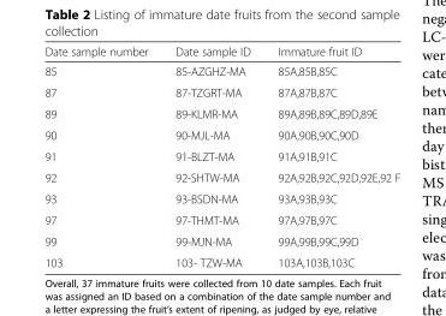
<table><thead><tr><td>Date sample number</td><td>Date sample ID</td><td>Immature fruit ID</td></tr></thead><tbody><tr><td>85</td><td>85-AZGHZ-MA</td><td>85A,85B,85C</td></tr><tr><td>87</td><td>87-TZGRT-MA</td><td>87A,87B,87C</td></tr><tr><td>89</td><td>89-KLMR-MA</td><td>89A,89B,89C,89D,89E</td></tr><tr><td>90</td><td>90-MJL-MA</td><td>90A,90B,90C,90D</td></tr><tr><td>91</td><td>91-BLZT-MA</td><td>91A,91B,91C</td></tr><tr><td>92</td><td>92-SHTW-MA</td><td>92A,92B,92C,92D,92E,92 F</td></tr><tr><td>93</td><td>93-BSDN-MA</td><td>93A,93B,93C</td></tr><tr><td>97</td><td>97-THMT-MA</td><td>97A,97B,97C</td></tr><tr><td>99</td><td>99-MJN-MA</td><td>99A,99B,99C,99D</td></tr><tr><td>103</td><td>103- TZW-MA</td><td>103A,103B,103C</td></tr></tbody></table>